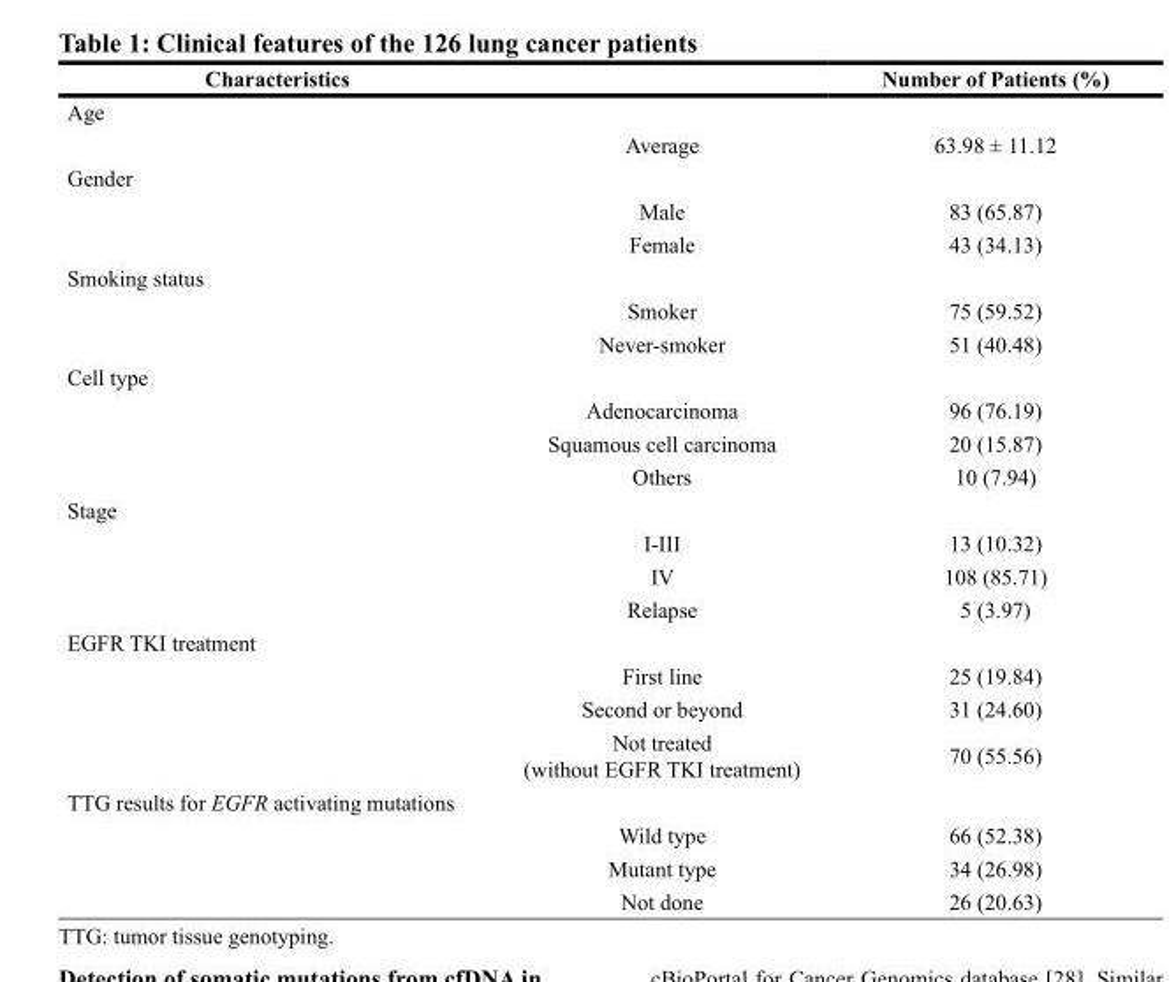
<table><thead><tr><td>Characteristics</td><td></td><td>Number of Patients (%)</td></tr></thead><tbody><tr><td colspan="3">Age</td></tr><tr><td></td><td>Average</td><td>63.98 ± 11.12</td></tr><tr><td colspan="3">Gender</td></tr><tr><td></td><td>Male</td><td>83 (65.87)</td></tr><tr><td></td><td>Female</td><td>43 (34.13)</td></tr><tr><td colspan="3">Smoking status</td></tr><tr><td></td><td>Smoker</td><td>75 (59.52)</td></tr><tr><td></td><td>Never-smoker</td><td>51 (40.48)</td></tr><tr><td colspan="3">Cell type</td></tr><tr><td></td><td>Adenocarcinoma</td><td>96 (76.19)</td></tr><tr><td></td><td>Squamous cell carcinoma</td><td>20 (15.87)</td></tr><tr><td></td><td>Others</td><td>10 (7.94)</td></tr><tr><td colspan="3">Stage</td></tr><tr><td></td><td>I-III</td><td>13 (10.32)</td></tr><tr><td></td><td>IV</td><td>108 (85.71)</td></tr><tr><td></td><td>Relapse</td><td>5 (3.97)</td></tr><tr><td colspan="3">EGFR TKI treatment</td></tr><tr><td></td><td>First line</td><td>25 (19.84)</td></tr><tr><td></td><td>Second or beyond</td><td>31 (24.60)</td></tr><tr><td></td><td>Not treated (without EGFR TKI treatment)</td><td>70 (55.56)</td></tr><tr><td colspan="3">TTG results for EGFR activating mutations</td></tr><tr><td></td><td>Wild type</td><td>66 (52.38)</td></tr><tr><td></td><td>Mutant type</td><td>34 (26.98)</td></tr><tr><td></td><td>Not done</td><td>26 (20.63)</td></tr></tbody></table>